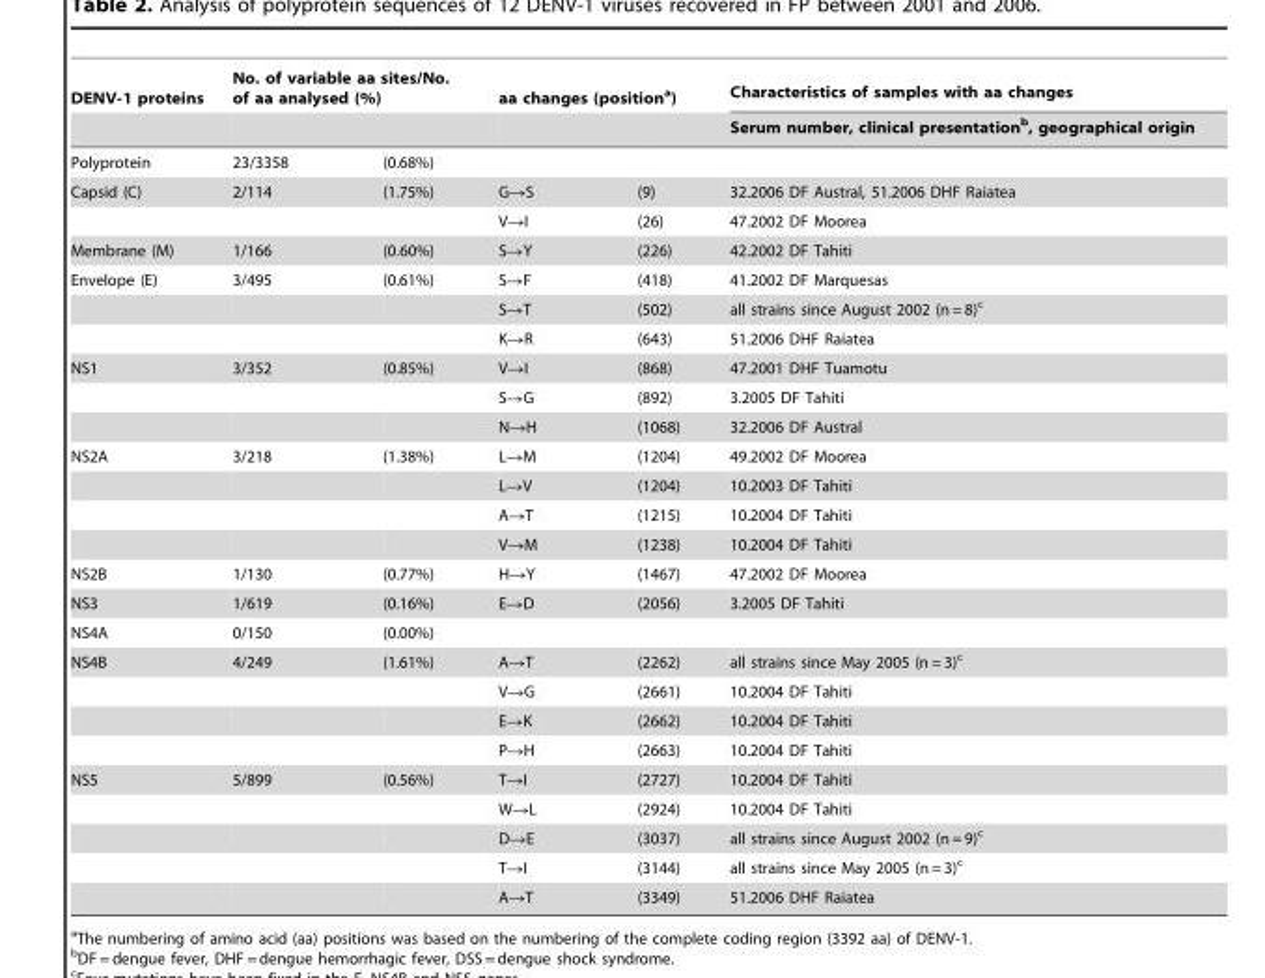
<table><thead><tr><td rowspan="2">DENV-1 proteins</td><td colspan="2">No. of variable aa sites/No. of aa analysed (%)</td><td colspan="2">aa changes (position<sup>a</sup>)</td><td rowspan="2">Characteristics of samples with aa changes Serum number, clinical presentation<sup>b</sup>, geographical origin</td></tr><tr><td></td><td></td><td></td><td></td></tr></thead><tbody><tr><td>Polyprotein</td><td>23/3358</td><td>(0.68%)</td><td></td><td></td><td></td></tr><tr><td rowspan="2">Capsid (C)</td><td>2/114</td><td>(1.75%)</td><td>G→S</td><td>(9)</td><td>32.2006 DF Austral, 51.2006 DHF Raiatea</td></tr><tr><td></td><td></td><td>V→I</td><td>(26)</td><td>47.2002 DF Moorea</td></tr><tr><td>Membrane (M)</td><td>1/166</td><td>(0.60%)</td><td>S→Y</td><td>(226)</td><td>42.2002 DF Tahiti</td></tr><tr><td rowspan="3">Envelope (E)</td><td>3/495</td><td>(0.61%)</td><td>S→F</td><td>(418)</td><td>41.2002 DF Marquesas</td></tr><tr><td></td><td></td><td>S→T</td><td>(502)</td><td>all strains since August 2002 (n = 8)<sup>c</sup></td></tr><tr><td></td><td></td><td>K→R</td><td>(643)</td><td>51.2006 DHF Raiatea</td></tr><tr><td rowspan="3">NS1</td><td>3/352</td><td>(0.85%)</td><td>V→I</td><td>(868)</td><td>47.2001 DHF Tuamotu</td></tr><tr><td></td><td></td><td>S→G</td><td>(892)</td><td>3.2005 DF Tahiti</td></tr><tr><td></td><td></td><td>N→H</td><td>(1068)</td><td>32.2006 DF Austral</td></tr><tr><td rowspan="4">NS2A</td><td>3/218</td><td>(1.38%)</td><td>L→M</td><td>(1204)</td><td>49.2002 DF Moorea</td></tr><tr><td></td><td></td><td>L→V</td><td>(1204)</td><td>10.2003 DF Tahiti</td></tr><tr><td></td><td></td><td>A→T</td><td>(1215)</td><td>10.2004 DF Tahiti</td></tr><tr><td></td><td></td><td>V→M</td><td>(1238)</td><td>10.2004 DF Tahiti</td></tr><tr><td>NS2B</td><td>1/130</td><td>(0.77%)</td><td>H→Y</td><td>(1467)</td><td>47.2002 DF Moorea</td></tr><tr><td>NS3</td><td>1/619</td><td>(0.16%)</td><td>E→D</td><td>(2056)</td><td>3.2005 DF Tahiti</td></tr><tr><td>NS4A</td><td>0/150</td><td>(0.00%)</td><td></td><td></td><td></td></tr><tr><td rowspan="4">NS4B</td><td>4/249</td><td>(1.61%)</td><td>A→T</td><td>(2262)</td><td>all strains since May 2005 (n = 3)<sup>c</sup></td></tr><tr><td></td><td></td><td>V→G</td><td>(2661)</td><td>10.2004 DF Tahiti</td></tr><tr><td></td><td></td><td>E→K</td><td>(2662)</td><td>10.2004 DF Tahiti</td></tr><tr><td></td><td></td><td>P→H</td><td>(2663)</td><td>10.2004 DF Tahiti</td></tr><tr><td rowspan="5">NS5</td><td>5/899</td><td>(0.56%)</td><td>T→I</td><td>(2727)</td><td>10.2004 DF Tahiti</td></tr><tr><td></td><td></td><td>W→L</td><td>(2924)</td><td>10.2004 DF Tahiti</td></tr><tr><td></td><td></td><td>D→E</td><td>(3037)</td><td>all strains since August 2002 (n = 9)<sup>c</sup></td></tr><tr><td></td><td></td><td>T→I</td><td>(3144)</td><td>all strains since May 2005 (n = 3)<sup>c</sup></td></tr><tr><td></td><td></td><td>A→T</td><td>(3349)</td><td>51.2006 DHF Raiatea</td></tr></tbody></table>